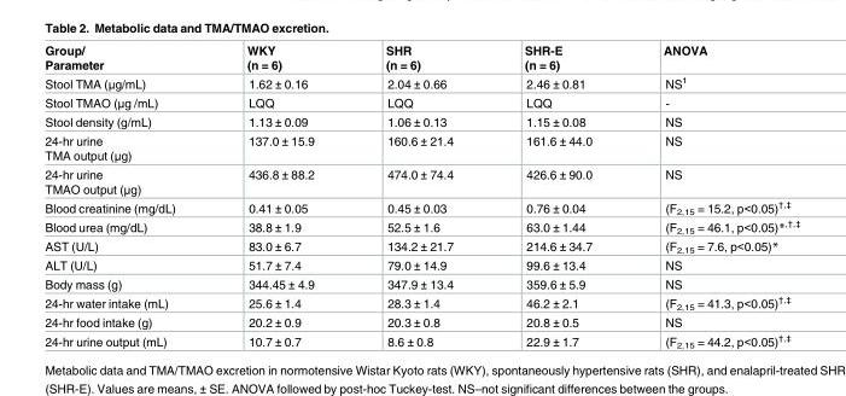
<table><thead><tr><td>Group/ Parameter</td><td>WKY (n = 6)</td><td>SHR (n = 6)</td><td>SHR-E (n = 6)</td><td>ANOVA</td></tr></thead><tbody><tr><td>Stool TMA (μg/mL)</td><td>1.62 ± 0.16</td><td>2.04 ± 0.66</td><td>2.46 ± 0.81</td><td>NS<sup>1</sup></td></tr><tr><td>Stool TMAO (μg /mL)</td><td>LQQ</td><td>LQQ</td><td>LQQ</td><td>-</td></tr><tr><td>Stool density (g/mL)</td><td>1.13 ± 0.09</td><td>1.06 ± 0.13</td><td>1.15 ± 0.08</td><td>NS</td></tr><tr><td>24-hr urine TMA output (μg)</td><td>137.0 ± 15.9</td><td>160.6 ± 21.4</td><td>161.6 ± 44.0</td><td>NS</td></tr><tr><td>24-hr urine TMAO output (μg)</td><td>436.8 ± 88.2</td><td>474.0 ± 74.4</td><td>426.6 ± 90.0</td><td>NS</td></tr><tr><td>Blood creatinine (mg/dL)</td><td>0.41 ± 0.05</td><td>0.45 ± 0.03</td><td>0.76 ± 0.04</td><td>(F<sub>2,15</sub> = 15.2, p&lt;0.05)<sup>†,‡</sup></td></tr><tr><td>Blood urea (mg/dL)</td><td>38.8 ± 1.9</td><td>52.5 ± 1.6</td><td>63.0 ± 1.44</td><td>(F<sub>2,15</sub> = 46.1, p&lt;0.05)*<sup>,†,‡</sup></td></tr><tr><td>AST (U/L)</td><td>83.0 ± 6.7</td><td>134.2 ± 21.7</td><td>214.6 ± 34.7</td><td>(F<sub>2,15</sub> = 7.6, p&lt;0.05)*</td></tr><tr><td>ALT (U/L)</td><td>51.7 ± 7.4</td><td>79.0 ± 14.9</td><td>99.6 ± 13.4</td><td>NS</td></tr><tr><td>Body mass (g)</td><td>344.45 ± 4.9</td><td>347.9 ± 13.4</td><td>359.6 ± 5.9</td><td>NS</td></tr><tr><td>24-hr water intake (mL)</td><td>25.6 ± 1.4</td><td>28.3 ± 1.4</td><td>46.2 ± 2.1</td><td>(F<sub>2,15</sub> = 41.3, p&lt;0.05)<sup>†,‡</sup></td></tr><tr><td>24-hr food intake (g)</td><td>20.2 ± 0.9</td><td>20.3 ± 0.8</td><td>20.8 ± 0.5</td><td>NS</td></tr><tr><td>24-hr urine output (mL)</td><td>10.7 ± 0.7</td><td>8.6 ± 0.8</td><td>22.9 ± 1.7</td><td>(F<sub>2,15</sub> = 44.2, p&lt;0.05)<sup>†,‡</sup></td></tr></tbody></table>